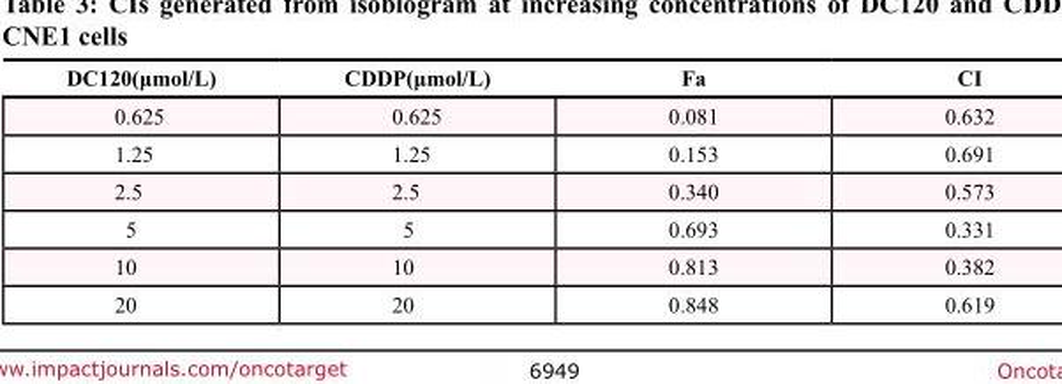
<table><thead><tr><td>DC120(μmol/L)</td><td>CDDP(μmol/L)</td><td>Fa</td><td>CI</td></tr></thead><tbody><tr><td>0.625</td><td>0.625</td><td>0.081</td><td>0.632</td></tr><tr><td>1.25</td><td>1.25</td><td>0.153</td><td>0.691</td></tr><tr><td>2.5</td><td>2.5</td><td>0.340</td><td>0.573</td></tr><tr><td>5</td><td>5</td><td>0.693</td><td>0.331</td></tr><tr><td>10</td><td>10</td><td>0.813</td><td>0.382</td></tr><tr><td>20</td><td>20</td><td>0.848</td><td>0.619</td></tr></tbody></table>